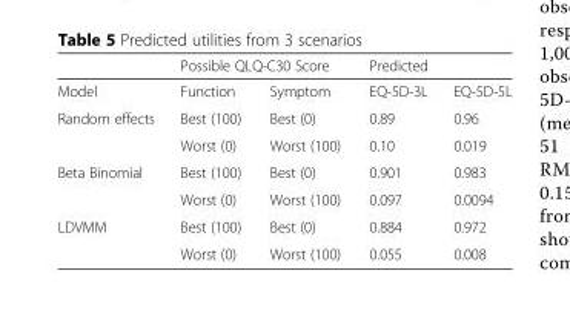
<table><thead><tr><td rowspan="2">Model</td><td colspan="2">Possible QLQ-C30 Score</td><td colspan="2">Predicted</td></tr><tr><td>Function</td><td>Symptom</td><td>EQ-5D-3L</td><td>EQ-5D-5L</td></tr></thead><tbody><tr><td rowspan="2">Random effects</td><td>Best (100)</td><td>Best (0)</td><td>0.89</td><td>0.96</td></tr><tr><td>Worst (0)</td><td>Worst (100)</td><td>0.10</td><td>0.019</td></tr><tr><td rowspan="2">Beta Binomial</td><td>Best (100)</td><td>Best (0)</td><td>0.901</td><td>0.983</td></tr><tr><td>Worst (0)</td><td>Worst (100)</td><td>0.097</td><td>0.0094</td></tr><tr><td rowspan="2">LDVMM</td><td>Best (100)</td><td>Best (0)</td><td>0.884</td><td>0.972</td></tr><tr><td>Worst (0)</td><td>Worst (100)</td><td>0.055</td><td>0.008</td></tr></tbody></table>